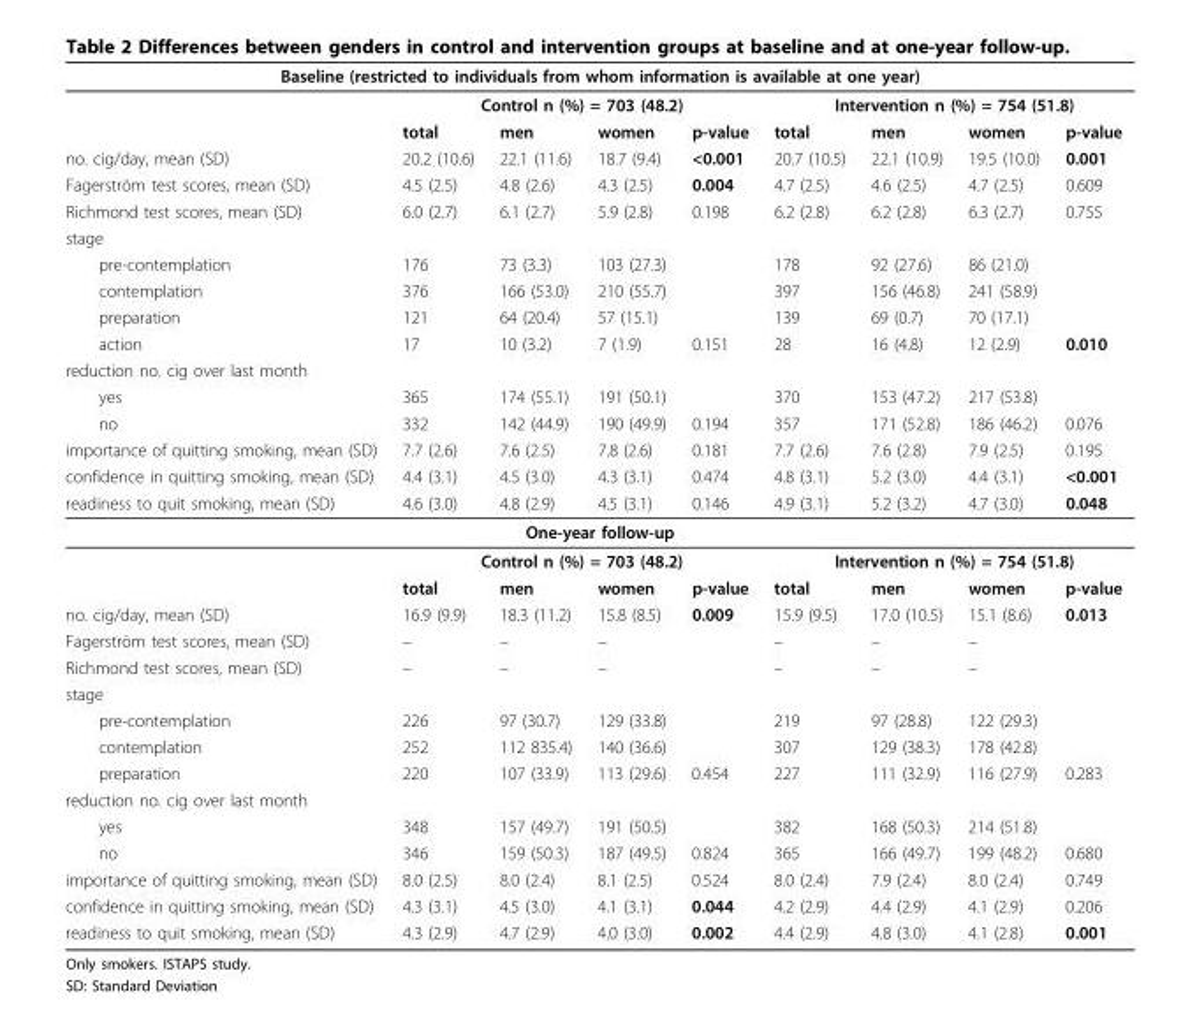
<table><thead><tr><td colspan="9">Baseline (restricted to individuals from whom information is available at one year)</td></tr><tr><td rowspan="2"></td><td colspan="4">Control n (%) = 703 (48.2)</td><td colspan="4">Intervention n (%) = 754 (51.8)</td></tr><tr><td>total</td><td>men</td><td>women</td><td>p-value</td><td>total</td><td>men</td><td>women</td><td>p-value</td></tr></thead><tbody><tr><td>no. cig/day, mean (SD)</td><td>20.2 (10.6)</td><td>22.1 (11.6)</td><td>18.7 (9.4)</td><td>&lt;0.001</td><td>20.7 (10.5)</td><td>22.1 (10.9)</td><td>19.5 (10.0)</td><td>0.001</td></tr><tr><td>Fagerström test scores, mean (SD)</td><td>4.5 (2.5)</td><td>4.8 (2.6)</td><td>4.3 (2.5)</td><td>0.004</td><td>4.7 (2.5)</td><td>4.6 (2.5)</td><td>4.7 (2.5)</td><td>0.609</td></tr><tr><td>Richmond test scores, mean (SD)</td><td>6.0 (2.7)</td><td>6.1 (2.7)</td><td>5.9 (2.8)</td><td>0.198</td><td>6.2 (2.8)</td><td>6.2 (2.8)</td><td>6.3 (2.7)</td><td>0.755</td></tr><tr><td colspan="9">stage</td></tr><tr><td>pre-contemplation</td><td>176</td><td>73 (3.3)</td><td>103 (27.3)</td><td></td><td>178</td><td>92 (27.6)</td><td>86 (21.0)</td><td></td></tr><tr><td>contemplation</td><td>376</td><td>166 (53.0)</td><td>210 (55.7)</td><td></td><td>397</td><td>156 (46.8)</td><td>241 (58.9)</td><td></td></tr><tr><td>preparation</td><td>121</td><td>64 (20.4)</td><td>57 (15.1)</td><td></td><td>139</td><td>69 (0.7)</td><td>70 (17.1)</td><td></td></tr><tr><td>action</td><td>17</td><td>10 (3.2)</td><td>7 (1.9)</td><td>0.151</td><td>28</td><td>16 (4.8)</td><td>12 (2.9)</td><td>0.010</td></tr><tr><td colspan="9">reduction no. cig over last month</td></tr><tr><td>yes</td><td>365</td><td>174 (55.1)</td><td>191 (50.1)</td><td></td><td>370</td><td>153 (47.2)</td><td>217 (53.8)</td><td></td></tr><tr><td>no</td><td>332</td><td>142 (44.9)</td><td>190 (49.9)</td><td>0.194</td><td>357</td><td>171 (52.8)</td><td>186 (46.2)</td><td>0.076</td></tr><tr><td>importance of quitting smoking, mean (SD)</td><td>7.7 (2.6)</td><td>7.6 (2.5)</td><td>7.8 (2.6)</td><td>0.181</td><td>7.7 (2.6)</td><td>7.6 (2.8)</td><td>7.9 (2.5)</td><td>0.195</td></tr><tr><td>confidence in quitting smoking, mean (SD)</td><td>4.4 (3.1)</td><td>4.5 (3.0)</td><td>4.3 (3.1)</td><td>0.474</td><td>4.8 (3.1)</td><td>5.2 (3.0)</td><td>4.4 (3.1)</td><td>&lt;0.001</td></tr><tr><td>readiness to quit smoking, mean (SD)</td><td>4.6 (3.0)</td><td>4.8 (2.9)</td><td>4.5 (3.1)</td><td>0.146</td><td>4.9 (3.1)</td><td>5.2 (3.2)</td><td>4.7 (3.0)</td><td>0.048</td></tr><tr><td colspan="9">One-year follow-up</td></tr><tr><td></td><td colspan="4">Control n (%) = 703 (48.2)</td><td colspan="4">Intervention n (%) = 754 (51.8)</td></tr><tr><td></td><td>total</td><td>men</td><td>women</td><td>p-value</td><td>total</td><td>men</td><td>women</td><td>p-value</td></tr><tr><td>no. cig/day, mean (SD)</td><td>16.9 (9.9)</td><td>18.3 (11.2)</td><td>15.8 (8.5)</td><td>0.009</td><td>15.9 (9.5)</td><td>17.0 (10.5)</td><td>15.1 (8.6)</td><td>0.013</td></tr><tr><td>Fagerström test scores, mean (SD)</td><td>–</td><td>–</td><td>–</td><td></td><td>–</td><td>–</td><td>–</td><td></td></tr><tr><td>Richmond test scores, mean (SD)</td><td>–</td><td>–</td><td>–</td><td></td><td>–</td><td>–</td><td>–</td><td></td></tr><tr><td colspan="9">stage</td></tr><tr><td>pre-contemplation</td><td>226</td><td>97 (30.7)</td><td>129 (33.8)</td><td></td><td>219</td><td>97 (28.8)</td><td>122 (29.3)</td><td></td></tr><tr><td>contemplation</td><td>252</td><td>112 835.4)</td><td>140 (36.6)</td><td></td><td>307</td><td>129 (38.3)</td><td>178 (42.8)</td><td></td></tr><tr><td>preparation</td><td>220</td><td>107 (33.9)</td><td>113 (29.6)</td><td>0.454</td><td>227</td><td>111 (32.9)</td><td>116 (27.9)</td><td>0.283</td></tr><tr><td colspan="9">reduction no. cig over last month</td></tr><tr><td>yes</td><td>348</td><td>157 (49.7)</td><td>191 (50.5)</td><td></td><td>382</td><td>168 (50.3)</td><td>214 (51.8)</td><td></td></tr><tr><td>no</td><td>346</td><td>159 (50.3)</td><td>187 (49.5)</td><td>0.824</td><td>365</td><td>166 (49.7)</td><td>199 (48.2)</td><td>0.680</td></tr><tr><td>importance of quitting smoking, mean (SD)</td><td>8.0 (2.5)</td><td>8.0 (2.4)</td><td>8.1 (2.5)</td><td>0.524</td><td>8.0 (2.4)</td><td>7.9 (2.4)</td><td>8.0 (2.4)</td><td>0.749</td></tr><tr><td>confidence in quitting smoking, mean (SD)</td><td>4.3 (3.1)</td><td>4.5 (3.0)</td><td>4.1 (3.1)</td><td>0.044</td><td>4.2 (2.9)</td><td>4.4 (2.9)</td><td>4.1 (2.9)</td><td>0.206</td></tr><tr><td>readiness to quit smoking, mean (SD)</td><td>4.3 (2.9)</td><td>4.7 (2.9)</td><td>4.0 (3.0)</td><td>0.002</td><td>4.4 (2.9)</td><td>4.8 (3.0)</td><td>4.1 (2.8)</td><td>0.001</td></tr></tbody></table>